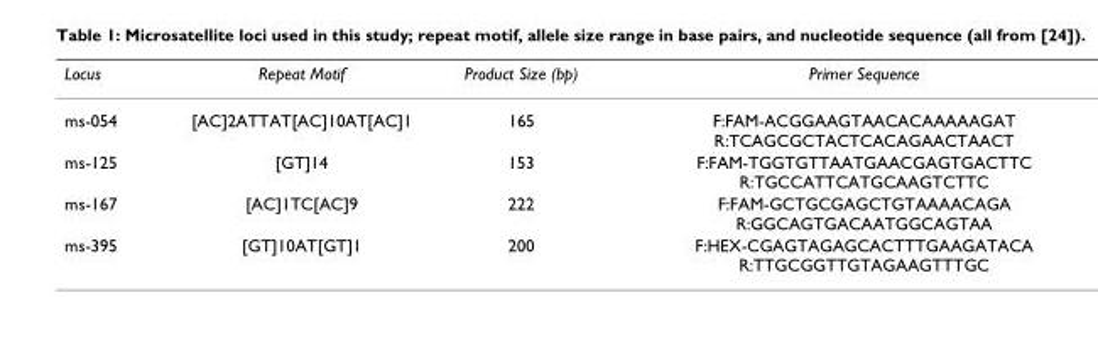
<table><thead><tr><td>Locus</td><td>Repeat Motif</td><td>Product Size (bp)</td><td>Primer Sequence</td></tr></thead><tbody><tr><td>ms-054</td><td>[AC]2ATTAT[AC]10AT[AC]1</td><td>165</td><td>F:FAM-ACGGAAGTAACACAAAAAGAT R:TCAGCGCTACTCACAGAACTAACT</td></tr><tr><td>ms-125</td><td>[GT]14</td><td>153</td><td>F:FAM-TGGTGTTAATGAACGAGTGACTTC R:TGCCATTCATGCAAGTCTTC</td></tr><tr><td>ms-167</td><td>[AC]1TC[AC]9</td><td>222</td><td>F:FAM-GCTGCGAGCTGTAAAACAGA R:GGCAGTGACAATGGCAGTAA</td></tr><tr><td>ms-395</td><td>[GT]10AT[GT]1</td><td>200</td><td>F:HEX-CGAGTAGAGCACTTTGAAGATACA R:TTGCGGTTGTAGAAGTTTGC</td></tr></tbody></table>